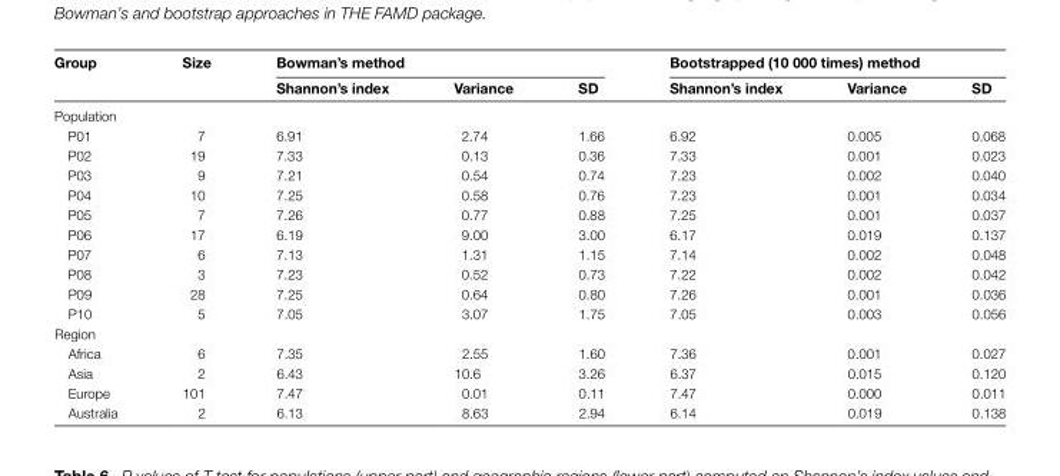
<table><thead><tr><td rowspan="2">Group</td><td rowspan="2">Size</td><td colspan="3">Bowman’s method</td><td colspan="3">Bootstrapped (10 000 times) method</td></tr><tr><td>Shannon’s index</td><td>Variance</td><td>SD</td><td>Shannon’s index</td><td>Variance</td><td>SD</td></tr></thead><tbody><tr><td colspan="8">Population</td></tr><tr><td>P01</td><td>7</td><td>6.91</td><td>2.74</td><td>1.66</td><td>6.92</td><td>0.005</td><td>0.068</td></tr><tr><td>P02</td><td>19</td><td>7.33</td><td>0.13</td><td>0.36</td><td>7.33</td><td>0.001</td><td>0.023</td></tr><tr><td>P03</td><td>9</td><td>7.21</td><td>0.54</td><td>0.74</td><td>7.23</td><td>0.002</td><td>0.040</td></tr><tr><td>P04</td><td>10</td><td>7.25</td><td>0.58</td><td>0.76</td><td>7.23</td><td>0.001</td><td>0.034</td></tr><tr><td>P05</td><td>7</td><td>7.26</td><td>0.77</td><td>0.88</td><td>7.25</td><td>0.001</td><td>0.037</td></tr><tr><td>P06</td><td>17</td><td>6.19</td><td>9.00</td><td>3.00</td><td>6.17</td><td>0.019</td><td>0.137</td></tr><tr><td>P07</td><td>6</td><td>7.13</td><td>1.31</td><td>1.15</td><td>7.14</td><td>0.002</td><td>0.048</td></tr><tr><td>P08</td><td>3</td><td>7.23</td><td>0.52</td><td>0.73</td><td>7.22</td><td>0.002</td><td>0.042</td></tr><tr><td>P09</td><td>28</td><td>7.25</td><td>0.64</td><td>0.80</td><td>7.26</td><td>0.001</td><td>0.036</td></tr><tr><td>P10</td><td>5</td><td>7.05</td><td>3.07</td><td>1.75</td><td>7.05</td><td>0.003</td><td>0.056</td></tr><tr><td colspan="8">Region</td></tr><tr><td>Africa</td><td>6</td><td>7.35</td><td>2.55</td><td>1.60</td><td>7.36</td><td>0.001</td><td>0.027</td></tr><tr><td>Asia</td><td>2</td><td>6.43</td><td>10.6</td><td>3.26</td><td>6.37</td><td>0.015</td><td>0.120</td></tr><tr><td>Europe</td><td>101</td><td>7.47</td><td>0.01</td><td>0.11</td><td>7.47</td><td>0.000</td><td>0.011</td></tr><tr><td>Australia</td><td>2</td><td>6.13</td><td>8.63</td><td>2.94</td><td>6.14</td><td>0.019</td><td>0.138</td></tr></tbody></table>